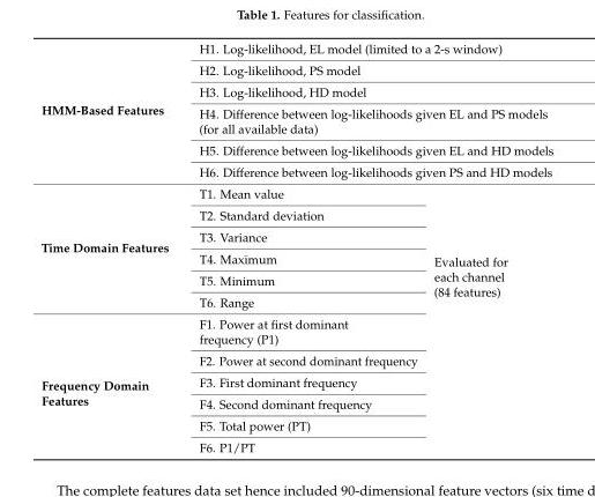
<table><tbody><tr><td rowspan="6">HMM-Based Features</td><td colspan="2">H1. Log-likelihood, EL model (limited to a 2-s window)</td></tr><tr><td colspan="2">H2. Log-likelihood, PS model</td></tr><tr><td colspan="2">H3. Log-likelihood, HD model</td></tr><tr><td colspan="2">H4. Difference between log-likelihoods given EL and PS models (for all available data)</td></tr><tr><td colspan="2">H5. Difference between log-likelihoods given EL and HD models</td></tr><tr><td colspan="2">H6. Difference between log-likelihoods given PS and HD models</td></tr><tr><td rowspan="6">Time Domain Features</td><td>T1. Mean value</td><td rowspan="12">Evaluated for each channel (84 features)</td></tr><tr><td>T2. Standard deviation</td></tr><tr><td>T3. Variance</td></tr><tr><td>T4. Maximum</td></tr><tr><td>T5. Minimum</td></tr><tr><td>T6. Range</td></tr><tr><td rowspan="6">Frequency Domain Features</td><td>F1. Power at first dominant frequency (P1)</td></tr><tr><td>F2. Power at second dominant frequency</td></tr><tr><td>F3. First dominant frequency</td></tr><tr><td>F4. Second dominant frequency</td></tr><tr><td>F5. Total power (PT)</td></tr><tr><td>F6. P1/PT</td></tr></tbody></table>